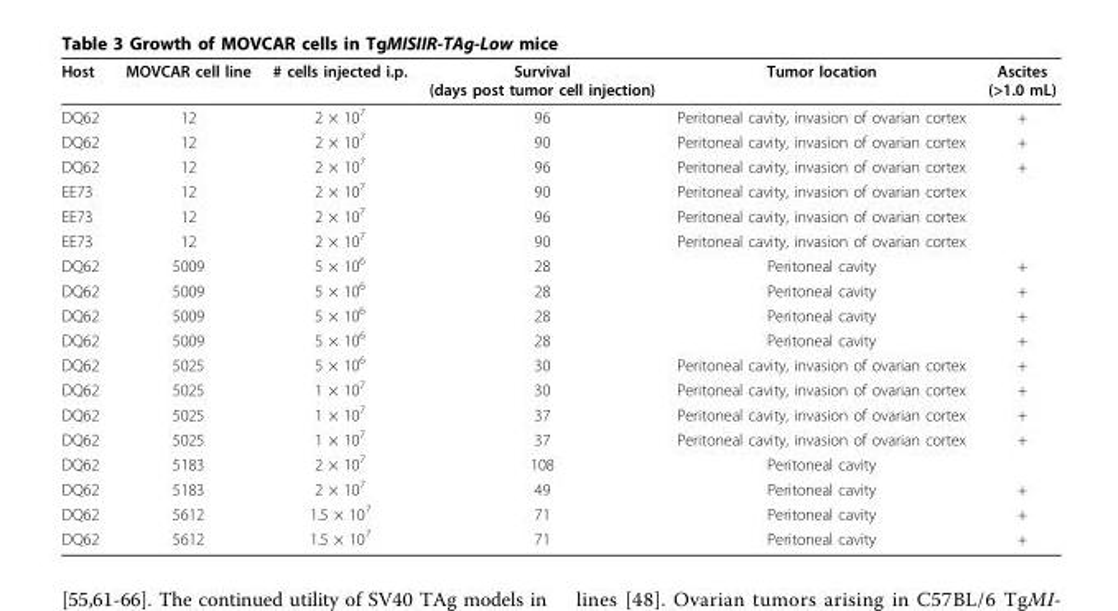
<table><thead><tr><td>Host</td><td>MOVCAR cell line</td><td># cells injected i.p.</td><td>Survival (days post tumor cell injection)</td><td>Tumor location</td><td>Ascites (&gt;1.0 mL)</td></tr></thead><tbody><tr><td>DQ62</td><td>12</td><td>2 × 10<sup>7</sup></td><td>96</td><td>Peritoneal cavity, invasion of ovarian cortex</td><td>+</td></tr><tr><td>DQ62</td><td>12</td><td>2 × 10<sup>7</sup></td><td>90</td><td>Peritoneal cavity, invasion of ovarian cortex</td><td>+</td></tr><tr><td>DQ62</td><td>12</td><td>2 × 10<sup>7</sup></td><td>96</td><td>Peritoneal cavity, invasion of ovarian cortex</td><td>+</td></tr><tr><td>EE73</td><td>12</td><td>2 × 10<sup>7</sup></td><td>90</td><td>Peritoneal cavity, invasion of ovarian cortex</td><td></td></tr><tr><td>EE73</td><td>12</td><td>2 × 10<sup>7</sup></td><td>96</td><td>Peritoneal cavity, invasion of ovarian cortex</td><td></td></tr><tr><td>EE73</td><td>12</td><td>2 × 10<sup>7</sup></td><td>90</td><td>Peritoneal cavity, invasion of ovarian cortex</td><td></td></tr><tr><td>DQ62</td><td>5009</td><td>5 × 10<sup>6</sup></td><td>28</td><td>Peritoneal cavity</td><td>+</td></tr><tr><td>DQ62</td><td>5009</td><td>5 × 10<sup>6</sup></td><td>28</td><td>Peritoneal cavity</td><td>+</td></tr><tr><td>DQ62</td><td>5009</td><td>5 × 10<sup>6</sup></td><td>28</td><td>Peritoneal cavity</td><td>+</td></tr><tr><td>DQ62</td><td>5009</td><td>5 × 10<sup>6</sup></td><td>28</td><td>Peritoneal cavity</td><td>+</td></tr><tr><td>DQ62</td><td>5025</td><td>5 × 10<sup>6</sup></td><td>30</td><td>Peritoneal cavity, invasion of ovarian cortex</td><td>+</td></tr><tr><td>DQ62</td><td>5025</td><td>1 × 10<sup>7</sup></td><td>30</td><td>Peritoneal cavity, invasion of ovarian cortex</td><td>+</td></tr><tr><td>DQ62</td><td>5025</td><td>1 × 10<sup>7</sup></td><td>37</td><td>Peritoneal cavity, invasion of ovarian cortex</td><td>+</td></tr><tr><td>DQ62</td><td>5025</td><td>1 × 10<sup>7</sup></td><td>37</td><td>Peritoneal cavity, invasion of ovarian cortex</td><td>+</td></tr><tr><td>DQ62</td><td>5183</td><td>2 × 10<sup>7</sup></td><td>108</td><td>Peritoneal cavity</td><td></td></tr><tr><td>DQ62</td><td>5183</td><td>2 × 10<sup>7</sup></td><td>49</td><td>Peritoneal cavity</td><td>+</td></tr><tr><td>DQ62</td><td>5612</td><td>1.5 × 10<sup>7</sup></td><td>71</td><td>Peritoneal cavity</td><td>+</td></tr><tr><td>DQ62</td><td>5612</td><td>1.5 × 10<sup>7</sup></td><td>71</td><td>Peritoneal cavity</td><td>+</td></tr></tbody></table>